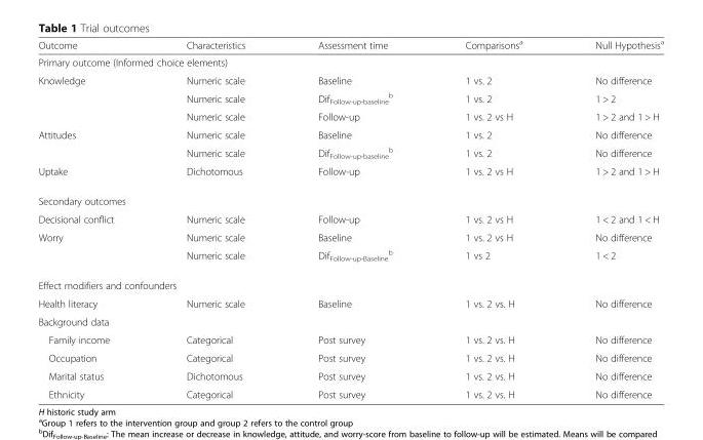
<table><thead><tr><td>Outcome</td><td>Characteristics</td><td>Assessment time</td><td>Comparisons<sup>a</sup></td><td>Null Hypothesis<sup>a</sup></td></tr></thead><tbody><tr><td colspan="5">Primary outcome (Informed choice elements)</td></tr><tr><td rowspan="3">Knowledge</td><td>Numeric scale</td><td>Baseline</td><td>1 vs. 2</td><td>No difference</td></tr><tr><td>Numeric scale</td><td>Dif<sub>Follow-up-baseline</sub> <sup>b</sup></td><td>1 vs. 2</td><td>1 &gt; 2</td></tr><tr><td>Numeric scale</td><td>Follow-up</td><td>1 vs. 2 vs H</td><td>1 &gt; 2 and 1 &gt; H</td></tr><tr><td rowspan="2">Attitudes</td><td>Numeric scale</td><td>Baseline</td><td>1 vs. 2</td><td>No difference</td></tr><tr><td>Numeric scale</td><td>Dif<sub>Follow-up-baseline</sub> <sup>b</sup></td><td>1 vs. 2</td><td>No difference</td></tr><tr><td>Uptake</td><td>Dichotomous</td><td>Follow-up</td><td>1 vs. 2 vs H</td><td>1 &gt; 2 and 1 &gt; H</td></tr><tr><td colspan="5">Secondary outcomes</td></tr><tr><td>Decisional conflict</td><td>Numeric scale</td><td>Follow-up</td><td>1 vs. 2 vs H</td><td>1 &lt; 2 and 1 &lt; H</td></tr><tr><td rowspan="2">Worry</td><td>Numeric scale</td><td>Baseline</td><td>1 vs. 2 vs H</td><td>No difference</td></tr><tr><td>Numeric scale</td><td>Dif<sub>Follow-up-Baseline</sub> <sup>b</sup></td><td>1 vs 2</td><td>1 &lt; 2</td></tr><tr><td colspan="5">Effect modifiers and confounders</td></tr><tr><td>Health literacy</td><td>Numeric scale</td><td>Baseline</td><td>1 vs. 2 vs. H</td><td>No difference</td></tr><tr><td colspan="5">Background data</td></tr><tr><td>Family income</td><td>Categorical</td><td>Post survey</td><td>1 vs. 2 vs. H</td><td>No difference</td></tr><tr><td>Occupation</td><td>Categorical</td><td>Post survey</td><td>1 vs. 2 vs. H</td><td>No difference</td></tr><tr><td>Marital status</td><td>Dichotomous</td><td>Post survey</td><td>1 vs. 2 vs. H</td><td>No difference</td></tr><tr><td>Ethnicity</td><td>Categorical</td><td>Post survey</td><td>1 vs. 2 vs. H</td><td>No difference</td></tr></tbody></table>